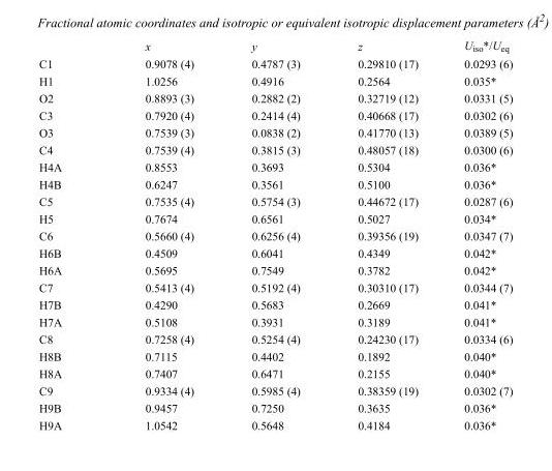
<table><thead><tr><td></td><td>x</td><td>y</td><td>z</td><td>U<sub>iso</sub>*/U<sub>eq</sub></td></tr></thead><tbody><tr><td>C1</td><td>0.9078 (4)</td><td>0.4787 (3)</td><td>0.29810 (17)</td><td>0.0293 (6)</td></tr><tr><td>H1</td><td>1.0256</td><td>0.4916</td><td>0.2564</td><td>0.035*</td></tr><tr><td>O2</td><td>0.8893 (3)</td><td>0.2882 (2)</td><td>0.32719 (12)</td><td>0.0331 (5)</td></tr><tr><td>C3</td><td>0.7920 (4)</td><td>0.2414 (4)</td><td>0.40668 (17)</td><td>0.0302 (6)</td></tr><tr><td>O3</td><td>0.7539 (3)</td><td>0.0838 (2)</td><td>0.41770 (13)</td><td>0.0389 (5)</td></tr><tr><td>C4</td><td>0.7539 (4)</td><td>0.3815 (3)</td><td>0.48057 (18)</td><td>0.0300 (6)</td></tr><tr><td>H4A</td><td>0.8553</td><td>0.3693</td><td>0.5304</td><td>0.036*</td></tr><tr><td>H4B</td><td>0.6247</td><td>0.3561</td><td>0.5100</td><td>0.036*</td></tr><tr><td>C5</td><td>0.7535 (4)</td><td>0.5754 (3)</td><td>0.44672 (17)</td><td>0.0287 (6)</td></tr><tr><td>H5</td><td>0.7674</td><td>0.6561</td><td>0.5027</td><td>0.034*</td></tr><tr><td>C6</td><td>0.5660 (4)</td><td>0.6256 (4)</td><td>0.39356 (19)</td><td>0.0347 (7)</td></tr><tr><td>H6B</td><td>0.4509</td><td>0.6041</td><td>0.4349</td><td>0.042*</td></tr><tr><td>H6A</td><td>0.5695</td><td>0.7549</td><td>0.3782</td><td>0.042*</td></tr><tr><td>C7</td><td>0.5413 (4)</td><td>0.5192 (4)</td><td>0.30310 (17)</td><td>0.0344 (7)</td></tr><tr><td>H7B</td><td>0.4290</td><td>0.5683</td><td>0.2669</td><td>0.041*</td></tr><tr><td>H7A</td><td>0.5108</td><td>0.3931</td><td>0.3189</td><td>0.041*</td></tr><tr><td>C8</td><td>0.7258 (4)</td><td>0.5254 (4)</td><td>0.24230 (17)</td><td>0.0334 (6)</td></tr><tr><td>H8B</td><td>0.7115</td><td>0.4402</td><td>0.1892</td><td>0.040*</td></tr><tr><td>H8A</td><td>0.7407</td><td>0.6471</td><td>0.2155</td><td>0.040*</td></tr><tr><td>C9</td><td>0.9334 (4)</td><td>0.5985 (4)</td><td>0.38359 (19)</td><td>0.0302 (7)</td></tr><tr><td>H9B</td><td>0.9457</td><td>0.7250</td><td>0.3635</td><td>0.036*</td></tr><tr><td>H9A</td><td>1.0542</td><td>0.5648</td><td>0.4184</td><td>0.036*</td></tr></tbody></table>